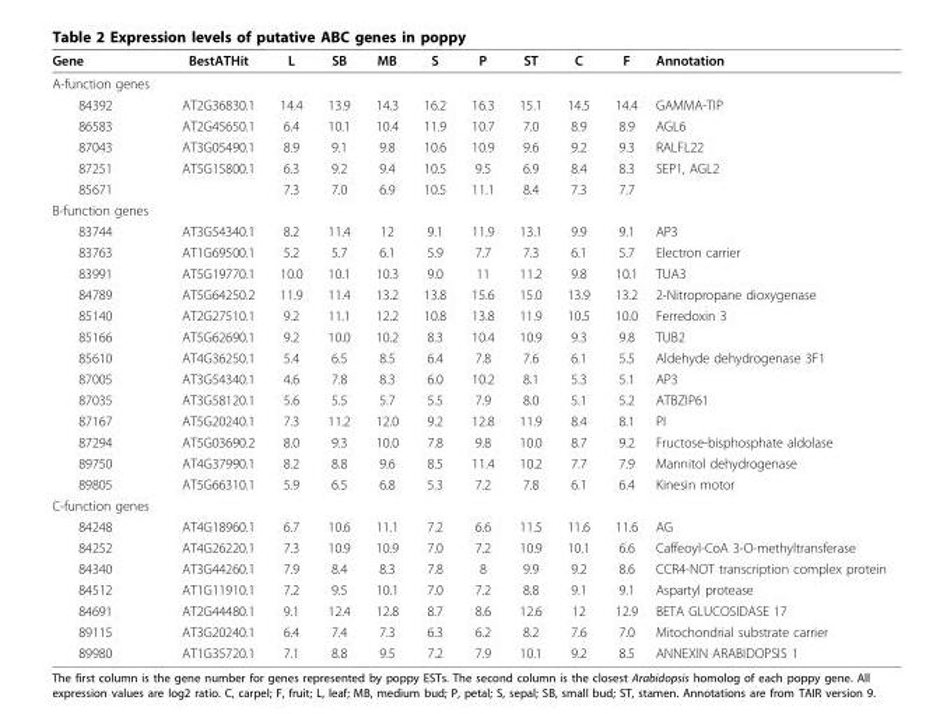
<table><thead><tr><td>Gene</td><td>BestATHit</td><td>L</td><td>SB</td><td>MB</td><td>S</td><td>P</td><td>ST</td><td>C</td><td>F</td><td>Annotation</td></tr></thead><tbody><tr><td colspan="11">A-function genes</td></tr><tr><td>84392</td><td>AT2G36830.1</td><td>14.4</td><td>13.9</td><td>14.3</td><td>16.2</td><td>16.3</td><td>15.1</td><td>14.5</td><td>14.4</td><td>GAMMA-TIP</td></tr><tr><td>86583</td><td>AT2G45650.1</td><td>6.4</td><td>10.1</td><td>10.4</td><td>11.9</td><td>10.7</td><td>7.0</td><td>8.9</td><td>8.9</td><td>AGL6</td></tr><tr><td>87043</td><td>AT3G05490.1</td><td>8.9</td><td>9.1</td><td>9.8</td><td>10.6</td><td>10.9</td><td>9.6</td><td>9.2</td><td>9.3</td><td>RALFL22</td></tr><tr><td>87251</td><td>AT5G15800.1</td><td>6.3</td><td>9.2</td><td>9.4</td><td>10.5</td><td>9.5</td><td>6.9</td><td>8.4</td><td>8.3</td><td>SEP1, AGL2</td></tr><tr><td>85671</td><td></td><td>7.3</td><td>7.0</td><td>6.9</td><td>10.5</td><td>11.1</td><td>8.4</td><td>7.3</td><td>7.7</td><td></td></tr><tr><td colspan="11">B-function genes</td></tr><tr><td>83744</td><td>AT3G54340.1</td><td>8.2</td><td>11.4</td><td>12</td><td>9.1</td><td>11.9</td><td>13.1</td><td>9.9</td><td>9.1</td><td>AP3</td></tr><tr><td>83763</td><td>AT1G69500.1</td><td>5.2</td><td>5.7</td><td>6.1</td><td>5.9</td><td>7.7</td><td>7.3</td><td>6.1</td><td>5.7</td><td>Electron carrier</td></tr><tr><td>83991</td><td>AT5G19770.1</td><td>10.0</td><td>10.1</td><td>10.3</td><td>9.0</td><td>11</td><td>11.2</td><td>9.8</td><td>10.1</td><td>TUA3</td></tr><tr><td>84789</td><td>AT5G64250.2</td><td>11.9</td><td>11.4</td><td>13.2</td><td>13.8</td><td>15.6</td><td>15.0</td><td>13.9</td><td>13.2</td><td>2-Nitropropane dioxygenase</td></tr><tr><td>85140</td><td>AT2G27510.1</td><td>9.2</td><td>11.1</td><td>12.2</td><td>10.8</td><td>13.8</td><td>11.9</td><td>10.5</td><td>10.0</td><td>Ferredoxin 3</td></tr><tr><td>85166</td><td>AT5G62690.1</td><td>9.2</td><td>10.0</td><td>10.2</td><td>8.3</td><td>10.4</td><td>10.9</td><td>9.3</td><td>9.8</td><td>TUB2</td></tr><tr><td>85610</td><td>AT4G36250.1</td><td>5.4</td><td>6.5</td><td>8.5</td><td>6.4</td><td>7.8</td><td>7.6</td><td>6.1</td><td>5.5</td><td>Aldehyde dehydrogenase 3F1</td></tr><tr><td>87005</td><td>AT3G54340.1</td><td>4.6</td><td>7.8</td><td>8.3</td><td>6.0</td><td>10.2</td><td>8.1</td><td>5.3</td><td>5.1</td><td>AP3</td></tr><tr><td>87035</td><td>AT3G58120.1</td><td>5.6</td><td>5.5</td><td>5.7</td><td>5.5</td><td>7.9</td><td>8.0</td><td>5.1</td><td>5.2</td><td>ATBZIP61</td></tr><tr><td>87167</td><td>AT5G20240.1</td><td>7.3</td><td>11.2</td><td>12.0</td><td>9.2</td><td>12.8</td><td>11.9</td><td>8.4</td><td>8.1</td><td>PI</td></tr><tr><td>87294</td><td>AT5G03690.2</td><td>8.0</td><td>9.3</td><td>10.0</td><td>7.8</td><td>9.8</td><td>10.0</td><td>8.7</td><td>9.2</td><td>Fructose-bisphosphate aldolase</td></tr><tr><td>89750</td><td>AT4G37990.1</td><td>8.2</td><td>8.8</td><td>9.6</td><td>8.5</td><td>11.4</td><td>10.2</td><td>7.7</td><td>7.9</td><td>Mannitol dehydrogenase</td></tr><tr><td>89805</td><td>AT5G66310.1</td><td>5.9</td><td>6.5</td><td>6.8</td><td>5.3</td><td>7.2</td><td>7.8</td><td>6.1</td><td>6.4</td><td>Kinesin motor</td></tr><tr><td colspan="11">C-function genes</td></tr><tr><td>84248</td><td>AT4G18960.1</td><td>6.7</td><td>10.6</td><td>11.1</td><td>7.2</td><td>6.6</td><td>11.5</td><td>11.6</td><td>11.6</td><td>AG</td></tr><tr><td>84252</td><td>AT4G26220.1</td><td>7.3</td><td>10.9</td><td>10.9</td><td>7.0</td><td>7.2</td><td>10.9</td><td>10.1</td><td>6.6</td><td>Caffeoyl-CoA 3-O-methyltransferase</td></tr><tr><td>84340</td><td>AT3G44260.1</td><td>7.9</td><td>8.4</td><td>8.3</td><td>7.8</td><td>8</td><td>9.9</td><td>9.2</td><td>8.6</td><td>CCR4-NOT transcription complex protein</td></tr><tr><td>84512</td><td>AT1G11910.1</td><td>7.2</td><td>9.5</td><td>10.1</td><td>7.0</td><td>7.2</td><td>8.8</td><td>9.1</td><td>9.1</td><td>Aspartyl protease</td></tr><tr><td>84691</td><td>AT2G44480.1</td><td>9.1</td><td>12.4</td><td>12.8</td><td>8.7</td><td>8.6</td><td>12.6</td><td>12</td><td>12.9</td><td>BETA GLUCOSIDASE 17</td></tr><tr><td>89115</td><td>AT3G20240.1</td><td>6.4</td><td>7.4</td><td>7.3</td><td>6.3</td><td>6.2</td><td>8.2</td><td>7.6</td><td>7.0</td><td>Mitochondrial substrate carrier</td></tr><tr><td>89980</td><td>AT1G35720.1</td><td>7.1</td><td>8.8</td><td>9.5</td><td>7.2</td><td>7.9</td><td>10.1</td><td>9.2</td><td>8.5</td><td>ANNEXIN ARABIDOPSIS 1</td></tr></tbody></table>